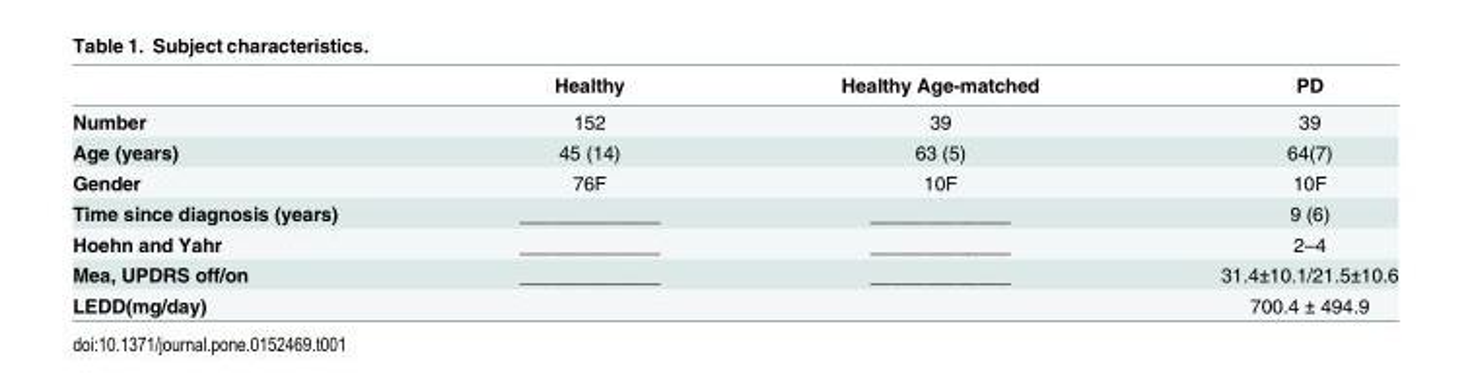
<table><thead><tr><td></td><td>Healthy</td><td>Healthy Age-matched</td><td>PD</td></tr></thead><tbody><tr><td>Number</td><td>152</td><td>39</td><td>39</td></tr><tr><td>Age (years)</td><td>45 (14)</td><td>63 (5)</td><td>64(7)</td></tr><tr><td>Gender</td><td>76F</td><td>10F</td><td>10F</td></tr><tr><td>Time since diagnosis (years)</td><td>_____________</td><td>_____________</td><td>9 (6)</td></tr><tr><td>Hoehn and Yahr</td><td>_____________</td><td>_____________</td><td>2–4</td></tr><tr><td>Mea, UPDRS off/on</td><td>_____________</td><td>_____________</td><td>31.4±10.1/21.5±10.6</td></tr><tr><td>LEDD(mg/day)</td><td></td><td></td><td>700.4 ± 494.9</td></tr></tbody></table>